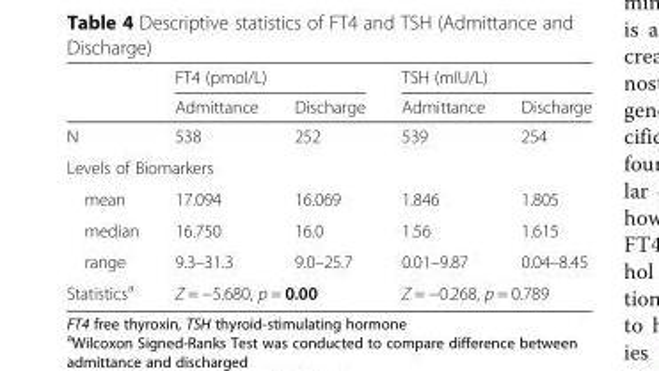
<table><thead><tr><td rowspan="2"></td><td colspan="2">FT4 (pmol/L)</td><td colspan="2">TSH (mIU/L)</td></tr><tr><td>Admittance</td><td>Discharge</td><td>Admittance</td><td>Discharge</td></tr></thead><tbody><tr><td>N</td><td>538</td><td>252</td><td>539</td><td>254</td></tr><tr><td colspan="5">Levels of Biomarkers</td></tr><tr><td>mean</td><td>17.094</td><td>16.069</td><td>1.846</td><td>1.805</td></tr><tr><td>median</td><td>16.750</td><td>16.0</td><td>1.56</td><td>1.615</td></tr><tr><td>range</td><td>9.3–31.3</td><td>9.0–25.7</td><td>0.01–9.87</td><td>0.04–8.45</td></tr><tr><td>Statistics<sup>a</sup></td><td colspan="2">Z = −5.680, p = 0.00</td><td colspan="2">Z = −0.268, p = 0.789</td></tr></tbody></table>